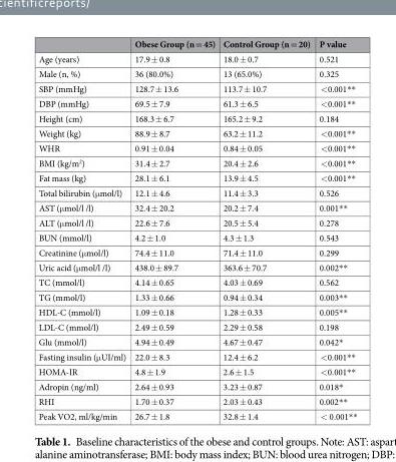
<table><thead><tr><td></td><td>Obese Group (n = 45)</td><td>Control Group (n = 20)</td><td>P value</td></tr></thead><tbody><tr><td>Age (years)</td><td>17.9 ± 0.8</td><td>18.0 ± 0.7</td><td>0.521</td></tr><tr><td>Male (n, %)</td><td>36 (80.0%)</td><td>13 (65.0%)</td><td>0.325</td></tr><tr><td>SBP (mmHg)</td><td>128.7 ± 13.6</td><td>113.7 ± 10.7</td><td>&lt;0.001**</td></tr><tr><td>DBP (mmHg)</td><td>69.5 ± 7.9</td><td>61.3 ± 6.5</td><td>&lt;0.001**</td></tr><tr><td>Height (cm)</td><td>168.3 ± 6.7</td><td>165.2 ± 9.2</td><td>0.184</td></tr><tr><td>Weight (kg)</td><td>88.9 ± 8.7</td><td>63.2 ± 11.2</td><td>&lt;0.001**</td></tr><tr><td>WHR</td><td>0.91 ± 0.04</td><td>0.84 ± 0.05</td><td>&lt;0.001**</td></tr><tr><td>BMI (kg/m<sup>2</sup>)</td><td>31.4 ± 2.7</td><td>20.4 ± 2.6</td><td>&lt;0.001**</td></tr><tr><td>Fat mass (kg)</td><td>28.1 ± 6.1</td><td>13.9 ± 4.5</td><td>&lt;0.001**</td></tr><tr><td>Total bilirubin (μmol/l)</td><td>12.1 ± 4.6</td><td>11.4 ± 3.3</td><td>0.526</td></tr><tr><td>AST (μmol/l /l)</td><td>32.4 ± 20.2</td><td>20.2 ± 7.4</td><td>0.001**</td></tr><tr><td>ALT (μmol/l /l)</td><td>22.6 ± 7.6</td><td>20.5 ± 5.4</td><td>0.278</td></tr><tr><td>BUN (mmol/l)</td><td>4.2 ± 1.0</td><td>4.3 ± 1.3</td><td>0.543</td></tr><tr><td>Creatinine (μmol/l)</td><td>74.4 ± 11.0</td><td>71.4 ± 11.0</td><td>0.299</td></tr><tr><td>Uric acid (μmol/l /l)</td><td>438.0 ± 89.7</td><td>363.6 ± 70.7</td><td>0.002**</td></tr><tr><td>TC (mmol/l)</td><td>4.14 ± 0.65</td><td>4.03 ± 0.69</td><td>0.562</td></tr><tr><td>TG (mmol/l)</td><td>1.33 ± 0.66</td><td>0.94 ± 0.34</td><td>0.003**</td></tr><tr><td>HDL-C (mmol/l)</td><td>1.09 ± 0.18</td><td>1.28 ± 0.33</td><td>0.005**</td></tr><tr><td>LDL-C (mmol/l)</td><td>2.49 ± 0.59</td><td>2.29 ± 0.58</td><td>0.198</td></tr><tr><td>Glu (mmol/l)</td><td>4.94 ± 0.49</td><td>4.67 ± 0.47</td><td>0.042*</td></tr><tr><td>Fasting insulin (μUI/ml)</td><td>22.0 ± 8.3</td><td>12.4 ± 6.2</td><td>&lt;0.001**</td></tr><tr><td>HOMA-IR</td><td>4.8 ± 1.9</td><td>2.6 ± 1.5</td><td>&lt;0.001**</td></tr><tr><td>Adropin (ng/ml)</td><td>2.64 ± 0.93</td><td>3.23 ± 0.87</td><td>0.018*</td></tr><tr><td>RHI</td><td>1.70 ± 0.37</td><td>2.03 ± 0.43</td><td>0.002**</td></tr><tr><td>Peak VO2, ml/kg/min</td><td>26.7 ± 1.8</td><td>32.8 ± 1.4</td><td>&lt; 0.001**</td></tr></tbody></table>